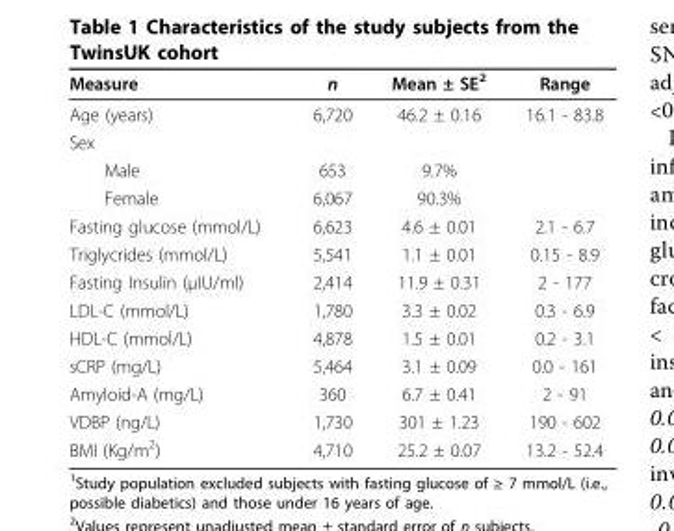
<table><thead><tr><td>Measure</td><td>n</td><td>Mean ± SE<sup>2</sup></td><td>Range</td></tr></thead><tbody><tr><td>Age (years)</td><td>6,720</td><td>46.2 ± 0.16</td><td>16.1 - 83.8</td></tr><tr><td colspan="4">Sex</td></tr><tr><td>Male</td><td>653</td><td>9.7%</td><td></td></tr><tr><td>Female</td><td>6,067</td><td>90.3%</td><td></td></tr><tr><td>Fasting glucose (mmol/L)</td><td>6,623</td><td>4.6 ± 0.01</td><td>2.1 - 6.7</td></tr><tr><td>Triglycrides (mmol/L)</td><td>5,541</td><td>1.1 ± 0.01</td><td>0.15 - 8.9</td></tr><tr><td>Fasting Insulin (μIU/ml)</td><td>2,414</td><td>11.9 ± 0.31</td><td>2 - 177</td></tr><tr><td>LDL-C (mmol/L)</td><td>1,780</td><td>3.3 ± 0.02</td><td>0.3 - 6.9</td></tr><tr><td>HDL-C (mmol/L)</td><td>4,878</td><td>1.5 ± 0.01</td><td>0.2 - 3.1</td></tr><tr><td>sCRP (mg/L)</td><td>5,464</td><td>3.1 ± 0.09</td><td>0.0 - 161</td></tr><tr><td>Amyloid-A (mg/L)</td><td>360</td><td>6.7 ± 0.41</td><td>2 - 91</td></tr><tr><td>VDBP (ng/L)</td><td>1,730</td><td>301 ± 1.23</td><td>190 - 602</td></tr><tr><td>BMI (Kg/m<sup>2</sup>)</td><td>4,710</td><td>25.2 ± 0.07</td><td>13.2 - 52.4</td></tr></tbody></table>